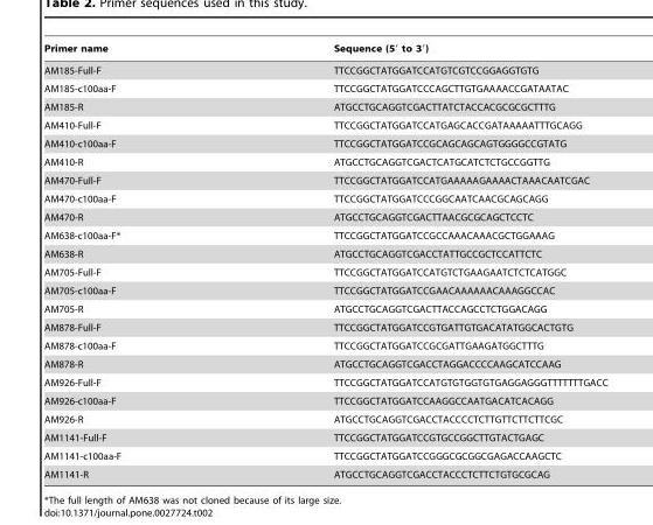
<table><thead><tr><td>Primer name</td><td>Sequence (5′ to 3′)</td></tr></thead><tbody><tr><td>AM185-Full-F</td><td>TTCCGGCTATGGATCCATGTCGTCCGGAGGTGTG</td></tr><tr><td>AM185-c100aa-F</td><td>TTCCGGCTATGGATCCCAGCTTGTGAAAACCGATAATAC</td></tr><tr><td>AM185-R</td><td>ATGCCTGCAGGTCGACTTATCTACCACGCGCGCTTTG</td></tr><tr><td>AM410-Full-F</td><td>TTCCGGCTATGGATCCATGAGCACCGATAAAAATTTGCAGG</td></tr><tr><td>AM410-c100aa-F</td><td>TTCCGGCTATGGATCCGCAGCAGCAGTGGGGCCGTATG</td></tr><tr><td>AM410-R</td><td>ATGCCTGCAGGTCGACTCATGCATCTCTGCCGGTTG</td></tr><tr><td>AM470-Full-F</td><td>TTCCGGCTATGGATCCATGAAAAAGAAAACTAAACAATCGAC</td></tr><tr><td>AM470-c100aa-F</td><td>TTCCGGCTATGGATCCCGGCAATCAACGCAGCAGG</td></tr><tr><td>AM470-R</td><td>ATGCCTGCAGGTCGACTTAACGCGCAGCTCCTC</td></tr><tr><td>AM638-c100aa-F*</td><td>TTCCGGCTATGGATCCGCCAAACAAACGCTGGAAAG</td></tr><tr><td>AM638-R</td><td>ATGCCTGCAGGTCGACCTATTGCCGCTCCATTCTC</td></tr><tr><td>AM705-Full-F</td><td>TTCCGGCTATGGATCCATGTCTGAAGAATCTCTCATGGC</td></tr><tr><td>AM705-c100aa-F</td><td>TTCCGGCTATGGATCCGAACAAAAAACAAAGGCCAC</td></tr><tr><td>AM705-R</td><td>ATGCCTGCAGGTCGACTTACCAGCCTCTGGACAGG</td></tr><tr><td>AM878-Full-F</td><td>TTCCGGCTATGGATCCGTGATTGTGACATATGGCACTGTG</td></tr><tr><td>AM878-c100aa-F</td><td>TTCCGGCTATGGATCCGCGATTGAAGATGGCTTTG</td></tr><tr><td>AM878-R</td><td>ATGCCTGCAGGTCGACCTAGGACCCCAAGCATCCAAG</td></tr><tr><td>AM926-Full-F</td><td>TTCCGGCTATGGATCCATGTGTGGTGTGAGGAGGGTTTTTTTGACC</td></tr><tr><td>AM926-c100aa-F</td><td>TTCCGGCTATGGATCCAAGGCCAATGACATCACAGG</td></tr><tr><td>AM926-R</td><td>ATGCCTGCAGGTCGACCTACCCCTCTTGTTCTTCTTCGC</td></tr><tr><td>AM1141-Full-F</td><td>TTCCGGCTATGGATCCGTGCCGGCTTGTACTGAGC</td></tr><tr><td>AM1141-c100aa-F</td><td>TTCCGGCTATGGATCCGGGCGCGGCGAGACCAAGCTC</td></tr><tr><td>AM1141-R</td><td>ATGCCTGCAGGTCGACCTACCCTCTTCTGTGCGCAG</td></tr></tbody></table>